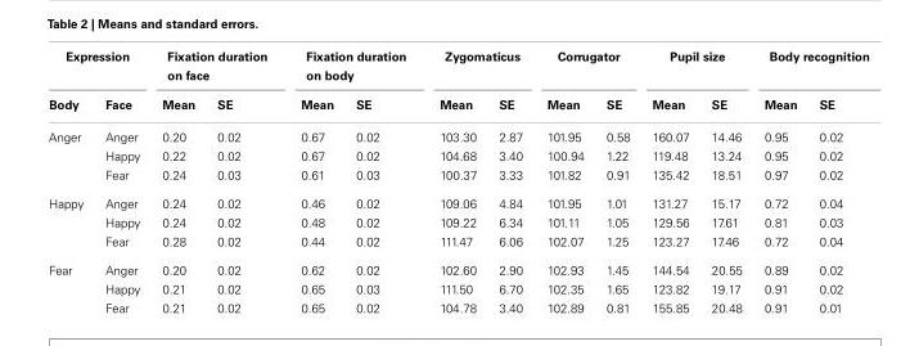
<table><thead><tr><td colspan="2">Expression</td><td colspan="2">Fixation duration on face</td><td colspan="2">Fixation duration on body</td><td colspan="2">Zygomaticus</td><td colspan="2">Corrugator</td><td colspan="2">Pupil size</td><td colspan="2">Body recognition</td></tr><tr><td>Body</td><td>Face</td><td>Mean</td><td>SE</td><td>Mean</td><td>SE</td><td>Mean</td><td>SE</td><td>Mean</td><td>SE</td><td>Mean</td><td>SE</td><td>Mean</td><td>SE</td></tr></thead><tbody><tr><td rowspan="3">Anger</td><td>Anger</td><td>0.20</td><td>0.02</td><td>0.67</td><td>0.02</td><td>103.30</td><td>2.87</td><td>101.95</td><td>0.58</td><td>160.07</td><td>14.46</td><td>0.95</td><td>0.02</td></tr><tr><td>Happy</td><td>0.22</td><td>0.02</td><td>0.67</td><td>0.02</td><td>104.68</td><td>3.40</td><td>100.94</td><td>1.22</td><td>119.48</td><td>13.24</td><td>0.95</td><td>0.02</td></tr><tr><td>Fear</td><td>0.24</td><td>0.03</td><td>0.61</td><td>0.03</td><td>100.37</td><td>3.33</td><td>101.82</td><td>0.91</td><td>135.42</td><td>18.51</td><td>0.97</td><td>0.02</td></tr><tr><td rowspan="3">Happy</td><td>Anger</td><td>0.24</td><td>0.02</td><td>0.46</td><td>0.02</td><td>109.06</td><td>4.84</td><td>101.95</td><td>1.01</td><td>131.27</td><td>15.17</td><td>0.72</td><td>0.04</td></tr><tr><td>Happy</td><td>0.24</td><td>0.02</td><td>0.48</td><td>0.02</td><td>109.22</td><td>6.34</td><td>101.11</td><td>1.05</td><td>129.56</td><td>17.61</td><td>0.81</td><td>0.03</td></tr><tr><td>Fear</td><td>0.28</td><td>0.02</td><td>0.44</td><td>0.02</td><td>111.47</td><td>6.06</td><td>102.07</td><td>1.25</td><td>123.27</td><td>17.46</td><td>0.72</td><td>0.04</td></tr><tr><td rowspan="2">Fear</td><td>Anger</td><td>0.20</td><td>0.02</td><td>0.62</td><td>0.02</td><td>102.60</td><td>2.90</td><td>102.93</td><td>1.45</td><td>144.54</td><td>20.55</td><td>0.89</td><td>0.02</td></tr><tr><td>Happy</td><td>0.21</td><td>0.02</td><td>0.65</td><td>0.03</td><td>111.50</td><td>6.70</td><td>102.35</td><td>1.65</td><td>123.82</td><td>19.17</td><td>0.91</td><td>0.02</td></tr></tbody></table>